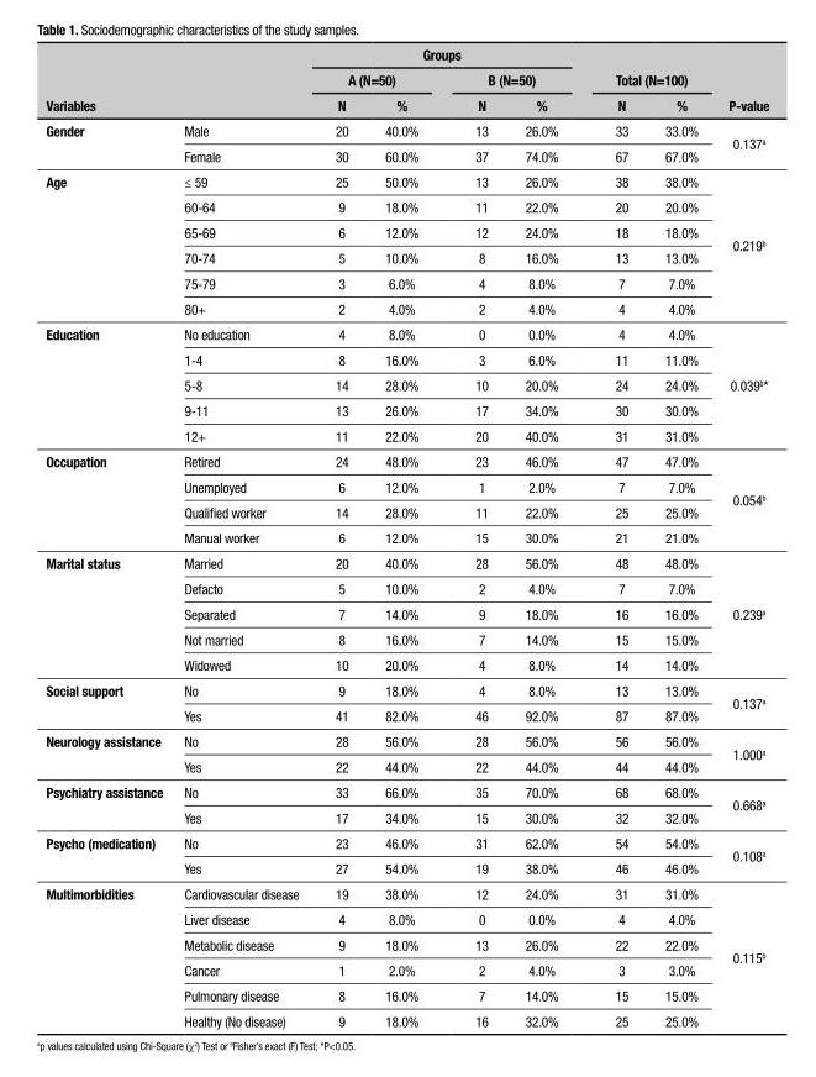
<table><thead><tr><td rowspan="3">Variables</td><td rowspan="3"></td><td colspan="4">Groups</td><td rowspan="2" colspan="2">Total (N=100)</td><td rowspan="3">P-value</td></tr><tr><td colspan="2">A (N=50)</td><td colspan="2">B (N=50)</td></tr><tr><td>N</td><td>%</td><td>N</td><td>%</td><td>N</td><td>%</td></tr></thead><tbody><tr><td rowspan="2">Gender</td><td>Male</td><td>20</td><td>40.0%</td><td>13</td><td>26.0%</td><td>33</td><td>33.0%</td><td rowspan="2">0.137<sup>a</sup></td></tr><tr><td>Female</td><td>30</td><td>60.0%</td><td>37</td><td>74.0%</td><td>67</td><td>67.0%</td></tr><tr><td rowspan="6">Age</td><td>≤ 59</td><td>25</td><td>50.0%</td><td>13</td><td>26.0%</td><td>38</td><td>38.0%</td><td rowspan="6">0.219<sup>b</sup></td></tr><tr><td>60-64</td><td>9</td><td>18.0%</td><td>11</td><td>22.0%</td><td>20</td><td>20.0%</td></tr><tr><td>65-69</td><td>6</td><td>12.0%</td><td>12</td><td>24.0%</td><td>18</td><td>18.0%</td></tr><tr><td>70-74</td><td>5</td><td>10.0%</td><td>8</td><td>16.0%</td><td>13</td><td>13.0%</td></tr><tr><td>75-79</td><td>3</td><td>6.0%</td><td>4</td><td>8.0%</td><td>7</td><td>7.0%</td></tr><tr><td>80+</td><td>2</td><td>4.0%</td><td>2</td><td>4.0%</td><td>4</td><td>4.0%</td></tr><tr><td rowspan="5">Education</td><td>No education</td><td>4</td><td>8.0%</td><td>0</td><td>0.0%</td><td>4</td><td>4.0%</td><td rowspan="5">0.039<sup>b</sup>*</td></tr><tr><td>1-4</td><td>8</td><td>16.0%</td><td>3</td><td>6.0%</td><td>11</td><td>11.0%</td></tr><tr><td>5-8</td><td>14</td><td>28.0%</td><td>10</td><td>20.0%</td><td>24</td><td>24.0%</td></tr><tr><td>9-11</td><td>13</td><td>26.0%</td><td>17</td><td>34.0%</td><td>30</td><td>30.0%</td></tr><tr><td>12+</td><td>11</td><td>22.0%</td><td>20</td><td>40.0%</td><td>31</td><td>31.0%</td></tr><tr><td rowspan="4">Occupation</td><td>Retired</td><td>24</td><td>48.0%</td><td>23</td><td>46.0%</td><td>47</td><td>47.0%</td><td rowspan="4">0.054<sup>b</sup></td></tr><tr><td>Unemployed</td><td>6</td><td>12.0%</td><td>1</td><td>2.0%</td><td>7</td><td>7.0%</td></tr><tr><td>Qualified worker</td><td>14</td><td>28.0%</td><td>11</td><td>22.0%</td><td>25</td><td>25.0%</td></tr><tr><td>Manual worker</td><td>6</td><td>12.0%</td><td>15</td><td>30.0%</td><td>21</td><td>21.0%</td></tr><tr><td rowspan="5">Marital status</td><td>Married</td><td>20</td><td>40.0%</td><td>28</td><td>56.0%</td><td>48</td><td>48.0%</td><td rowspan="5">0.239<sup>a</sup></td></tr><tr><td>Defacto</td><td>5</td><td>10.0%</td><td>2</td><td>4.0%</td><td>7</td><td>7.0%</td></tr><tr><td>Separated</td><td>7</td><td>14.0%</td><td>9</td><td>18.0%</td><td>16</td><td>16.0%</td></tr><tr><td>Not married</td><td>8</td><td>16.0%</td><td>7</td><td>14.0%</td><td>15</td><td>15.0%</td></tr><tr><td>Widowed</td><td>10</td><td>20.0%</td><td>4</td><td>8.0%</td><td>14</td><td>14.0%</td></tr><tr><td rowspan="2">Social support</td><td>No</td><td>9</td><td>18.0%</td><td>4</td><td>8.0%</td><td>13</td><td>13.0%</td><td rowspan="2">0.137<sup>a</sup></td></tr><tr><td>Yes</td><td>41</td><td>82.0%</td><td>46</td><td>92.0%</td><td>87</td><td>87.0%</td></tr><tr><td rowspan="2">Neurology assistance</td><td>No</td><td>28</td><td>56.0%</td><td>28</td><td>56.0%</td><td>56</td><td>56.0%</td><td rowspan="2">1.000<sup>a</sup></td></tr><tr><td>Yes</td><td>22</td><td>44.0%</td><td>22</td><td>44.0%</td><td>44</td><td>44.0%</td></tr><tr><td rowspan="2">Psychiatry assistance</td><td>No</td><td>33</td><td>66.0%</td><td>35</td><td>70.0%</td><td>68</td><td>68.0%</td><td rowspan="2">0.668<sup>a</sup></td></tr><tr><td>Yes</td><td>17</td><td>34.0%</td><td>15</td><td>30.0%</td><td>32</td><td>32.0%</td></tr><tr><td rowspan="2">Psycho (medication)</td><td>No</td><td>23</td><td>46.0%</td><td>31</td><td>62.0%</td><td>54</td><td>54.0%</td><td rowspan="2">0.108<sup>a</sup></td></tr><tr><td>Yes</td><td>27</td><td>54.0%</td><td>19</td><td>38.0%</td><td>46</td><td>46.0%</td></tr><tr><td rowspan="6">Multimorbidities</td><td>Cardiovascular disease</td><td>19</td><td>38.0%</td><td>12</td><td>24.0%</td><td>31</td><td>31.0%</td><td rowspan="6">0.115<sup>b</sup></td></tr><tr><td>Liver disease</td><td>4</td><td>8.0%</td><td>0</td><td>0.0%</td><td>4</td><td>4.0%</td></tr><tr><td>Metabolic disease</td><td>9</td><td>18.0%</td><td>13</td><td>26.0%</td><td>22</td><td>22.0%</td></tr><tr><td>Cancer</td><td>1</td><td>2.0%</td><td>2</td><td>4.0%</td><td>3</td><td>3.0%</td></tr><tr><td>Pulmonary disease</td><td>8</td><td>16.0%</td><td>7</td><td>14.0%</td><td>15</td><td>15.0%</td></tr><tr><td>Healthy (No disease)</td><td>9</td><td>18.0%</td><td>16</td><td>32.0%</td><td>25</td><td>25.0%</td></tr></tbody></table>